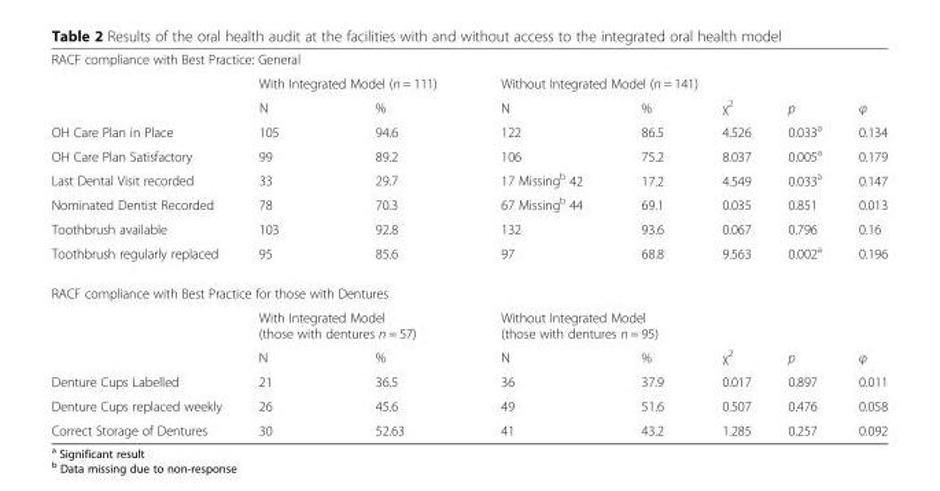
<table><tbody><tr><td colspan="8">RACF compliance with Best Practice: General</td></tr><tr><td rowspan="2"></td><td colspan="2">With Integrated Model (n = 111)</td><td colspan="5">Without Integrated Model (n = 141)</td></tr><tr><td>N</td><td>%</td><td>N</td><td>%</td><td>χ<sup>2</sup></td><td>p</td><td>φ</td></tr><tr><td>OH Care Plan in Place</td><td>105</td><td>94.6</td><td>122</td><td>86.5</td><td>4.526</td><td>0.033<sup>a</sup></td><td>0.134</td></tr><tr><td>OH Care Plan Satisfactory</td><td>99</td><td>89.2</td><td>106</td><td>75.2</td><td>8.037</td><td>0.005<sup>a</sup></td><td>0.179</td></tr><tr><td>Last Dental Visit recorded</td><td>33</td><td>29.7</td><td>17 Missing<sup>b</sup> 42</td><td>17.2</td><td>4.549</td><td>0.033<sup>a</sup></td><td>0.147</td></tr><tr><td>Nominated Dentist Recorded</td><td>78</td><td>70.3</td><td>67 Missing<sup>b</sup> 44</td><td>69.1</td><td>0.035</td><td>0.851</td><td>0.013</td></tr><tr><td>Toothbrush available</td><td>103</td><td>92.8</td><td>132</td><td>93.6</td><td>0.067</td><td>0.796</td><td>0.16</td></tr><tr><td>Toothbrush regularly replaced</td><td>95</td><td>85.6</td><td>97</td><td>68.8</td><td>9.563</td><td>0.002<sup>a</sup></td><td>0.196</td></tr><tr><td colspan="8">RACF compliance with Best Practice for those with Dentures</td></tr><tr><td></td><td colspan="2">With Integrated Model (those with dentures n = 57)</td><td colspan="2">Without Integrated Model (those with dentures n = 95)</td><td></td><td></td><td></td></tr><tr><td></td><td>N</td><td>%</td><td>N</td><td>%</td><td>χ<sup>2</sup></td><td>p</td><td>φ</td></tr><tr><td>Denture Cups Labelled</td><td>21</td><td>36.5</td><td>36</td><td>37.9</td><td>0.017</td><td>0.897</td><td>0.011</td></tr><tr><td>Denture Cups replaced weekly</td><td>26</td><td>45.6</td><td>49</td><td>51.6</td><td>0.507</td><td>0.476</td><td>0.058</td></tr><tr><td>Correct Storage of Dentures</td><td>30</td><td>52.63</td><td>41</td><td>43.2</td><td>1.285</td><td>0.257</td><td>0.092</td></tr></tbody></table>